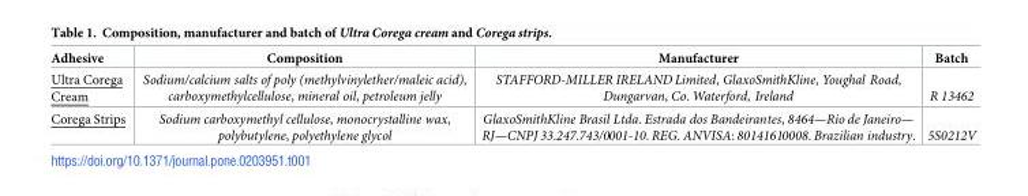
<table><thead><tr><td>Adhesive</td><td>Composition</td><td>Manufacturer</td><td>Batch</td></tr></thead><tbody><tr><td>Ultra Corega Cream</td><td>Sodium/calcium salts of poly (methylvinylether/maleic acid), carboxymethylcellulose, mineral oil, petroleum jelly</td><td>STAFFORD-MILLER IRELAND Limited, GlaxoSmithKline, Youghal Road, Dungarvan, Co. Waterford, Ireland</td><td>R 13462</td></tr><tr><td>Corega Strips</td><td>Sodium carboxymethyl cellulose, monocrystalline wax, polybutylene, polyethylene glycol</td><td>GlaxoSmithKline Brasil Ltda. Estrada dos Bandeirantes, 8464—Rio de Janeiro— RJ—CNPJ 33.247.743/0001-10. REG. ANVISA: 80141610008. Brazilian industry.</td><td>5S0212V</td></tr></tbody></table>